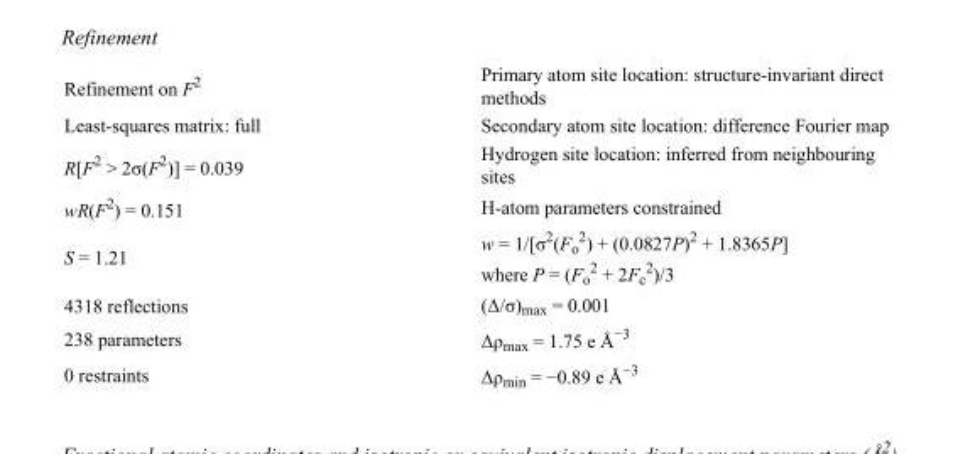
<table><tbody><tr><td>Refinement on F<sup>2</sup></td><td>Primary atom site location: structure-invariant direct methods</td></tr><tr><td>Least-squares matrix: full</td><td>Secondary atom site location: difference Fourier map</td></tr><tr><td>R[F<sup>2</sup> &gt; 2σ(F<sup>2</sup>)] = 0.039</td><td>Hydrogen site location: inferred from neighbouring sites</td></tr><tr><td>wR(F<sup>2</sup>) = 0.151</td><td>H-atom parameters constrained</td></tr><tr><td>S = 1.21</td><td>w = 1/[σ<sup>2</sup>(F<sub>o</sub> <sup>2</sup>) + (0.0827P)<sup>2</sup> + 1.8365P] where P = (F<sub>o</sub> <sup>2</sup> + 2F<sub>c</sub> <sup>2</sup>)/3</td></tr><tr><td>4318 reflections</td><td>(Δ/σ)<sub>max</sub> = 0.001</td></tr><tr><td>238 parameters</td><td>Δρ<sub>max</sub> = 1.75 e Å<sup>−3</sup></td></tr><tr><td>0 restraints</td><td>Δρ<sub>min</sub> = −0.89 e Å<sup>−3</sup></td></tr></tbody></table>